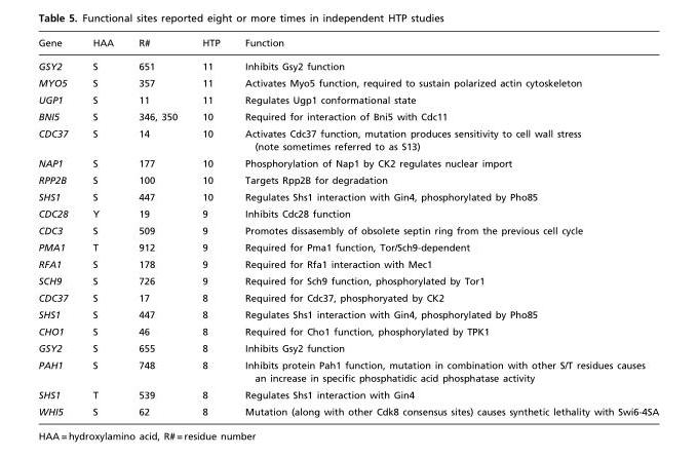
<table><thead><tr><td>Gene</td><td>HAA</td><td>R#</td><td>HTP</td><td>Function</td></tr></thead><tbody><tr><td>GSY2</td><td>S</td><td>651</td><td>11</td><td>Inhibits Gsy2 function</td></tr><tr><td>MYO5</td><td>S</td><td>357</td><td>11</td><td>Activates Myo5 function, required to sustain polarized actin cytoskeleton</td></tr><tr><td>UGP1</td><td>S</td><td>11</td><td>11</td><td>Regulates Ugp1 conformational state</td></tr><tr><td>BNI5</td><td>S</td><td>346, 350</td><td>10</td><td>Required for interaction of Bni5 with Cdc11</td></tr><tr><td>CDC37</td><td>S</td><td>14</td><td>10</td><td>Activates Cdc37 function, mutation produces sensitivity to cell wall stress (note sometimes referred to as S13)</td></tr><tr><td>NAP1</td><td>S</td><td>177</td><td>10</td><td>Phosphorylation of Nap1 by CK2 regulates nuclear import</td></tr><tr><td>RPP2B</td><td>S</td><td>100</td><td>10</td><td>Targets Rpp2B for degradation</td></tr><tr><td>SHS1</td><td>S</td><td>447</td><td>10</td><td>Regulates Shs1 interaction with Gin4, phosphorylated by Pho85</td></tr><tr><td>CDC28</td><td>Y</td><td>19</td><td>9</td><td>Inhibits Cdc28 function</td></tr><tr><td>CDC3</td><td>S</td><td>509</td><td>9</td><td>Promotes dissasembly of obsolete septin ring from the previous cell cycle</td></tr><tr><td>PMA1</td><td>T</td><td>912</td><td>9</td><td>Required for Pma1 function, Tor/Sch9-dependent</td></tr><tr><td>RFA1</td><td>S</td><td>178</td><td>9</td><td>Required for Rfa1 interaction with Mec1</td></tr><tr><td>SCH9</td><td>S</td><td>726</td><td>9</td><td>Required for Sch9 function, phosphorylated by Tor1</td></tr><tr><td>CDC37</td><td>S</td><td>17</td><td>8</td><td>Required for Cdc37, phosphoryated by CK2</td></tr><tr><td>SHS1</td><td>S</td><td>447</td><td>8</td><td>Regulates Shs1 interaction with Gin4, phosphorylated by Pho85</td></tr><tr><td>CHO1</td><td>S</td><td>46</td><td>8</td><td>Required for Cho1 function, phosphorylated by TPK1</td></tr><tr><td>GSY2</td><td>S</td><td>655</td><td>8</td><td>Inhibits Gsy2 function</td></tr><tr><td>PAH1</td><td>S</td><td>748</td><td>8</td><td>Inhibits protein Pah1 function, mutation in combination with other S/T residues causes an increase in specific phosphatidic acid phosphatase activity</td></tr><tr><td>SHS1</td><td>T</td><td>539</td><td>8</td><td>Regulates Shs1 interaction with Gin4</td></tr><tr><td>WHI5</td><td>S</td><td>62</td><td>8</td><td>Mutation (along with other Cdk8 consensus sites) causes synthetic lethality with Swi6-4SA</td></tr></tbody></table>